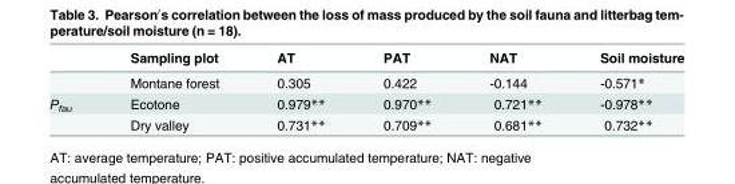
<table><thead><tr><td></td><td>Sampling plot</td><td>AT</td><td>PAT</td><td>NAT</td><td>Soil moisture</td></tr></thead><tbody><tr><td></td><td>Montane forest</td><td>0.305</td><td>0.422</td><td>-0.144</td><td>-0.571*</td></tr><tr><td rowspan="2">P<sub>fau</sub></td><td>Ecotone</td><td>0.979**</td><td>0.970**</td><td>0.721**</td><td>-0.978**</td></tr><tr><td>Dry valley</td><td>0.731**</td><td>0.709**</td><td>0.681**</td><td>0.732**</td></tr></tbody></table>